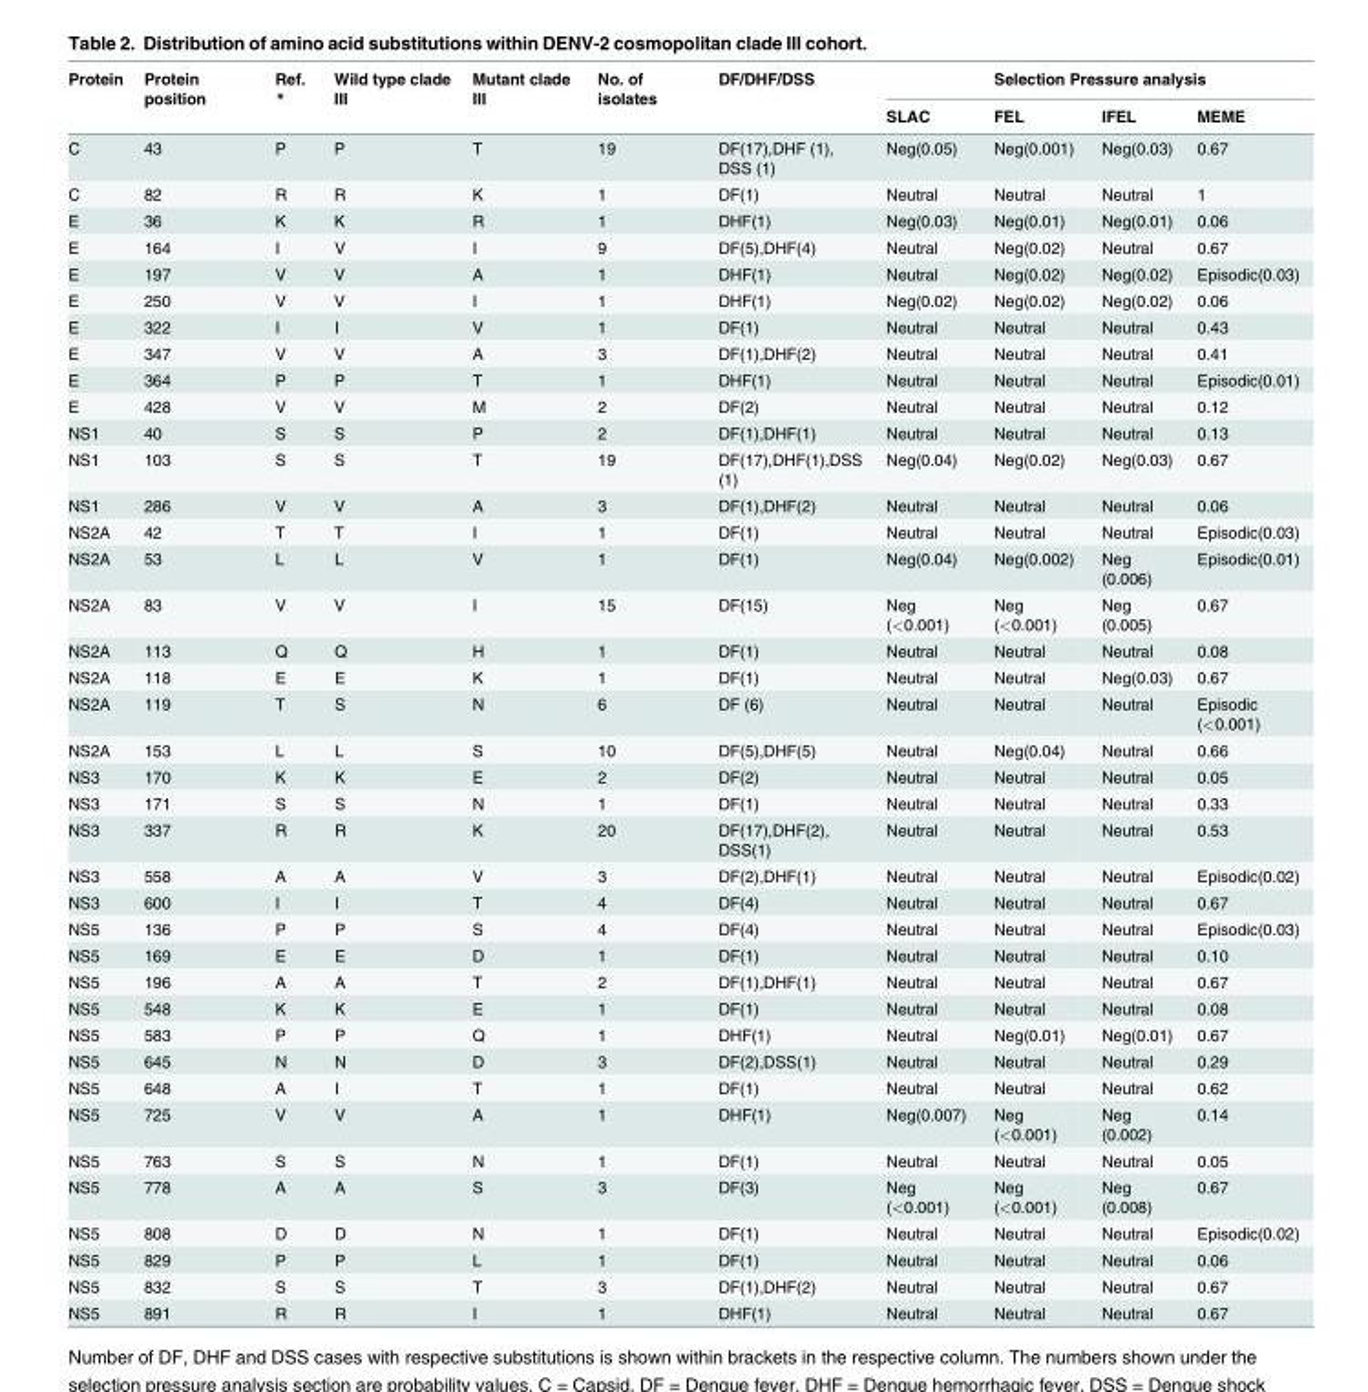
<table><thead><tr><td rowspan="2">Protein</td><td rowspan="2">Protein position</td><td rowspan="2">Ref. *</td><td rowspan="2">Wild type clade III</td><td rowspan="2">Mutant clade III</td><td rowspan="2">No. of isolates</td><td rowspan="2">DF/DHF/DSS</td><td colspan="4">Selection Pressure analysis</td></tr><tr><td>SLAC</td><td>FEL</td><td>IFEL</td><td>MEME</td></tr></thead><tbody><tr><td>C</td><td>43</td><td>P</td><td>P</td><td>T</td><td>19</td><td>DF(17),DHF (1), DSS (1)</td><td>Neg(0.05)</td><td>Neg(0.001)</td><td>Neg(0.03)</td><td>0.67</td></tr><tr><td>C</td><td>82</td><td>R</td><td>R</td><td>K</td><td>1</td><td>DF(1)</td><td>Neutral</td><td>Neutral</td><td>Neutral</td><td>1</td></tr><tr><td>E</td><td>36</td><td>K</td><td>K</td><td>R</td><td>1</td><td>DHF(1)</td><td>Neg(0.03)</td><td>Neg(0.01)</td><td>Neg(0.01)</td><td>0.06</td></tr><tr><td>E</td><td>164</td><td>I</td><td>V</td><td>I</td><td>9</td><td>DF(5),DHF(4)</td><td>Neutral</td><td>Neg(0.02)</td><td>Neutral</td><td>0.67</td></tr><tr><td>E</td><td>197</td><td>V</td><td>V</td><td>A</td><td>1</td><td>DHF(1)</td><td>Neutral</td><td>Neg(0.02)</td><td>Neg(0.02)</td><td>Episodic(0.03)</td></tr><tr><td>E</td><td>250</td><td>V</td><td>V</td><td>I</td><td>1</td><td>DHF(1)</td><td>Neg(0.02)</td><td>Neg(0.02)</td><td>Neg(0.02)</td><td>0.06</td></tr><tr><td>E</td><td>322</td><td>I</td><td>I</td><td>V</td><td>1</td><td>DF(1)</td><td>Neutral</td><td>Neutral</td><td>Neutral</td><td>0.43</td></tr><tr><td>E</td><td>347</td><td>V</td><td>V</td><td>A</td><td>3</td><td>DF(1),DHF(2)</td><td>Neutral</td><td>Neutral</td><td>Neutral</td><td>0.41</td></tr><tr><td>E</td><td>364</td><td>P</td><td>P</td><td>T</td><td>1</td><td>DHF(1)</td><td>Neutral</td><td>Neutral</td><td>Neutral</td><td>Episodic(0.01)</td></tr><tr><td>E</td><td>428</td><td>V</td><td>V</td><td>M</td><td>2</td><td>DF(2)</td><td>Neutral</td><td>Neutral</td><td>Neutral</td><td>0.12</td></tr><tr><td>NS1</td><td>40</td><td>S</td><td>S</td><td>P</td><td>2</td><td>DF(1),DHF(1)</td><td>Neutral</td><td>Neutral</td><td>Neutral</td><td>0.13</td></tr><tr><td>NS1</td><td>103</td><td>S</td><td>S</td><td>T</td><td>19</td><td>DF(17),DHF(1),DSS (1)</td><td>Neg(0.04)</td><td>Neg(0.02)</td><td>Neg(0.03)</td><td>0.67</td></tr><tr><td>NS1</td><td>286</td><td>V</td><td>V</td><td>A</td><td>3</td><td>DF(1),DHF(2)</td><td>Neutral</td><td>Neutral</td><td>Neutral</td><td>0.06</td></tr><tr><td>NS2A</td><td>42</td><td>T</td><td>T</td><td>I</td><td>1</td><td>DF(1)</td><td>Neutral</td><td>Neutral</td><td>Neutral</td><td>Episodic(0.03)</td></tr><tr><td>NS2A</td><td>53</td><td>L</td><td>L</td><td>V</td><td>1</td><td>DF(1)</td><td>Neg(0.04)</td><td>Neg(0.002)</td><td>Neg (0.006)</td><td>Episodic(0.01)</td></tr><tr><td>NS2A</td><td>83</td><td>V</td><td>V</td><td>I</td><td>15</td><td>DF(15)</td><td>Neg (&lt;0.001)</td><td>Neg (&lt;0.001)</td><td>Neg (0.005)</td><td>0.67</td></tr><tr><td>NS2A</td><td>113</td><td>Q</td><td>Q</td><td>H</td><td>1</td><td>DF(1)</td><td>Neutral</td><td>Neutral</td><td>Neutral</td><td>0.08</td></tr><tr><td>NS2A</td><td>118</td><td>E</td><td>E</td><td>K</td><td>1</td><td>DF(1)</td><td>Neutral</td><td>Neutral</td><td>Neg(0.03)</td><td>0.67</td></tr><tr><td>NS2A</td><td>119</td><td>T</td><td>S</td><td>N</td><td>6</td><td>DF (6)</td><td>Neutral</td><td>Neutral</td><td>Neutral</td><td>Episodic (&lt;0.001)</td></tr><tr><td>NS2A</td><td>153</td><td>L</td><td>L</td><td>S</td><td>10</td><td>DF(5),DHF(5)</td><td>Neutral</td><td>Neg(0.04)</td><td>Neutral</td><td>0.66</td></tr><tr><td>NS3</td><td>170</td><td>K</td><td>K</td><td>E</td><td>2</td><td>DF(2)</td><td>Neutral</td><td>Neutral</td><td>Neutral</td><td>0.05</td></tr><tr><td>NS3</td><td>171</td><td>S</td><td>S</td><td>N</td><td>1</td><td>DF(1)</td><td>Neutral</td><td>Neutral</td><td>Neutral</td><td>0.33</td></tr><tr><td>NS3</td><td>337</td><td>R</td><td>R</td><td>K</td><td>20</td><td>DF(17),DHF(2), DSS(1)</td><td>Neutral</td><td>Neutral</td><td>Neutral</td><td>0.53</td></tr><tr><td>NS3</td><td>558</td><td>A</td><td>A</td><td>V</td><td>3</td><td>DF(2),DHF(1)</td><td>Neutral</td><td>Neutral</td><td>Neutral</td><td>Episodic(0.02)</td></tr><tr><td>NS3</td><td>600</td><td>I</td><td>I</td><td>T</td><td>4</td><td>DF(4)</td><td>Neutral</td><td>Neutral</td><td>Neutral</td><td>0.67</td></tr><tr><td>NS5</td><td>136</td><td>P</td><td>P</td><td>S</td><td>4</td><td>DF(4)</td><td>Neutral</td><td>Neutral</td><td>Neutral</td><td>Episodic(0.03)</td></tr><tr><td>NS5</td><td>169</td><td>E</td><td>E</td><td>D</td><td>1</td><td>DF(1)</td><td>Neutral</td><td>Neutral</td><td>Neutral</td><td>0.10</td></tr><tr><td>NS5</td><td>196</td><td>A</td><td>A</td><td>T</td><td>2</td><td>DF(1),DHF(1)</td><td>Neutral</td><td>Neutral</td><td>Neutral</td><td>0.67</td></tr><tr><td>NS5</td><td>548</td><td>K</td><td>K</td><td>E</td><td>1</td><td>DF(1)</td><td>Neutral</td><td>Neutral</td><td>Neutral</td><td>0.08</td></tr><tr><td>NS5</td><td>583</td><td>P</td><td>P</td><td>Q</td><td>1</td><td>DHF(1)</td><td>Neutral</td><td>Neg(0.01)</td><td>Neg(0.01)</td><td>0.67</td></tr><tr><td>NS5</td><td>645</td><td>N</td><td>N</td><td>D</td><td>3</td><td>DF(2),DSS(1)</td><td>Neutral</td><td>Neutral</td><td>Neutral</td><td>0.29</td></tr><tr><td>NS5</td><td>648</td><td>A</td><td>I</td><td>T</td><td>1</td><td>DF(1)</td><td>Neutral</td><td>Neutral</td><td>Neutral</td><td>0.62</td></tr><tr><td>NS5</td><td>725</td><td>V</td><td>V</td><td>A</td><td>1</td><td>DHF(1)</td><td>Neg(0.007)</td><td>Neg (&lt;0.001)</td><td>Neg (0.002)</td><td>0.14</td></tr><tr><td>NS5</td><td>763</td><td>S</td><td>S</td><td>N</td><td>1</td><td>DF(1)</td><td>Neutral</td><td>Neutral</td><td>Neutral</td><td>0.05</td></tr><tr><td>NS5</td><td>778</td><td>A</td><td>A</td><td>S</td><td>3</td><td>DF(3)</td><td>Neg (&lt;0.001)</td><td>Neg (&lt;0.001)</td><td>Neg (0.008)</td><td>0.67</td></tr><tr><td>NS5</td><td>808</td><td>D</td><td>D</td><td>N</td><td>1</td><td>DF(1)</td><td>Neutral</td><td>Neutral</td><td>Neutral</td><td>Episodic(0.02)</td></tr><tr><td>NS5</td><td>829</td><td>P</td><td>P</td><td>L</td><td>1</td><td>DF(1)</td><td>Neutral</td><td>Neutral</td><td>Neutral</td><td>0.06</td></tr><tr><td>NS5</td><td>832</td><td>S</td><td>S</td><td>T</td><td>3</td><td>DF(1),DHF(2)</td><td>Neutral</td><td>Neutral</td><td>Neutral</td><td>0.67</td></tr><tr><td>NS5</td><td>891</td><td>R</td><td>R</td><td>I</td><td>1</td><td>DHF(1)</td><td>Neutral</td><td>Neutral</td><td>Neutral</td><td>0.67</td></tr></tbody></table>